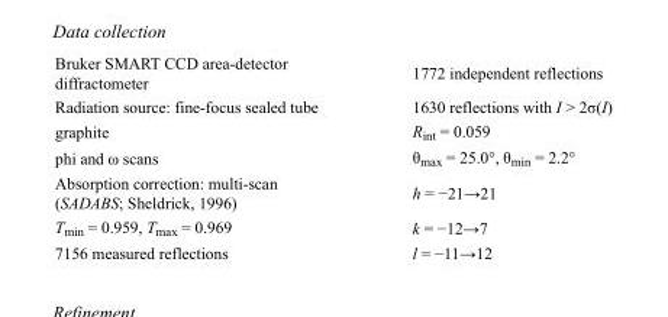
<table><tbody><tr><td>Bruker SMART CCD area-detector diffractometer</td><td>1772 independent reflections</td></tr><tr><td>Radiation source: fine-focus sealed tube</td><td>1630 reflections with I &gt; 2σ(I)</td></tr><tr><td>graphite</td><td>R<sub>int</sub> = 0.059</td></tr><tr><td>phi and ω scans</td><td>θ<sub>max</sub> = 25.0°, θ<sub>min</sub> = 2.2°</td></tr><tr><td>Absorption correction: multi-scan (SADABS; Sheldrick, 1996)</td><td>h = −21→21</td></tr><tr><td>T<sub>min</sub> = 0.959, T<sub>max</sub> = 0.969</td><td>k = −12→7</td></tr><tr><td>7156 measured reflections</td><td>l = −11→12</td></tr></tbody></table>